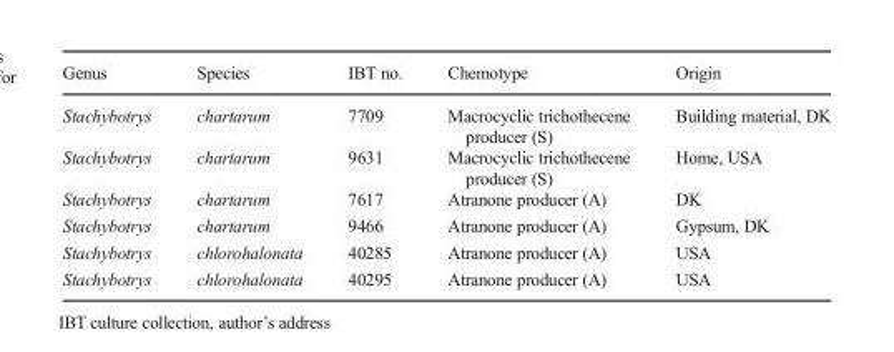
<table><thead><tr><td>Genus</td><td>Species</td><td>IBT no.</td><td>Chemotype</td><td>Origin</td></tr></thead><tbody><tr><td>Stachybotrys</td><td>chartarum</td><td>7709</td><td>Macrocyclic trichothecene producer (S)</td><td>Building material, DK</td></tr><tr><td>Stachybotrys</td><td>chartarum</td><td>9631</td><td>Macrocyclic trichothecene producer (S)</td><td>Home, USA</td></tr><tr><td>Stachybotrys</td><td>chartarum</td><td>7617</td><td>Atranone producer (A)</td><td>DK</td></tr><tr><td>Stachybotrys</td><td>chartarum</td><td>9466</td><td>Atranone producer (A)</td><td>Gypsum, DK</td></tr><tr><td>Stachybotrys</td><td>chlorohalonata</td><td>40285</td><td>Atranone producer (A)</td><td>USA</td></tr><tr><td>Stachybotrys</td><td>chlorohalonata</td><td>40295</td><td>Atranone producer (A)</td><td>USA</td></tr></tbody></table>